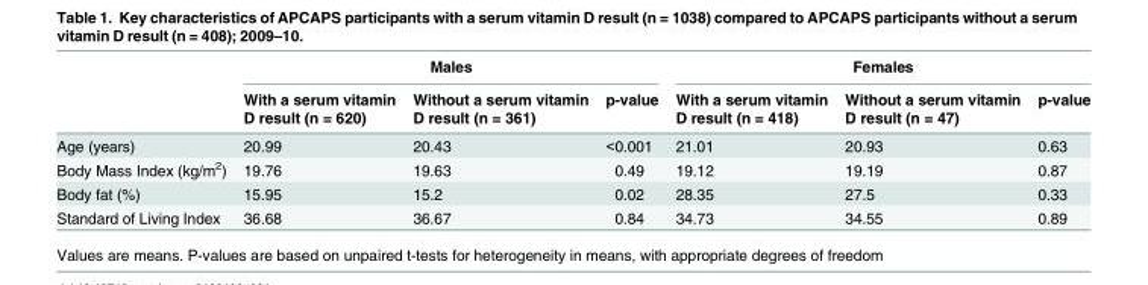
<table><thead><tr><td rowspan="2"></td><td colspan="3">Males</td><td colspan="3">Females</td></tr><tr><td>With a serum vitamin D result (n = 620)</td><td>Without a serum vitamin D result (n = 361)</td><td>p-value</td><td>With a serum vitamin D result (n = 418)</td><td>Without a serum vitamin D result (n = 47)</td><td>p-value</td></tr></thead><tbody><tr><td>Age (years)</td><td>20.99</td><td>20.43</td><td>&lt;0.001</td><td>21.01</td><td>20.93</td><td>0.63</td></tr><tr><td>Body Mass Index (kg/m<sup>2</sup>)</td><td>19.76</td><td>19.63</td><td>0.49</td><td>19.12</td><td>19.19</td><td>0.87</td></tr><tr><td>Body fat (%)</td><td>15.95</td><td>15.2</td><td>0.02</td><td>28.35</td><td>27.5</td><td>0.33</td></tr><tr><td>Standard of Living Index</td><td>36.68</td><td>36.67</td><td>0.84</td><td>34.73</td><td>34.55</td><td>0.89</td></tr></tbody></table>